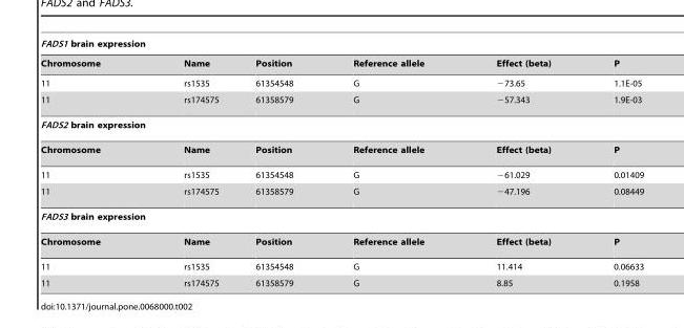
<table><thead><tr><td colspan="6">FADS1 brain expression</td></tr><tr><td>Chromosome</td><td>Name</td><td>Position</td><td>Reference allele</td><td>Effect (beta)</td><td>P</td></tr></thead><tbody><tr><td>11</td><td>rs1535</td><td>61354548</td><td>G</td><td>−73.65</td><td>1.1E-05</td></tr><tr><td>11</td><td>rs174575</td><td>61358579</td><td>G</td><td>−57.343</td><td>1.9E-03</td></tr><tr><td colspan="6">FADS2 brain expression</td></tr><tr><td>Chromosome</td><td>Name</td><td>Position</td><td>Reference allele</td><td>Effect (beta)</td><td>P</td></tr><tr><td>11</td><td>rs1535</td><td>61354548</td><td>G</td><td>−61.029</td><td>0.01409</td></tr><tr><td>11</td><td>rs174575</td><td>61358579</td><td>G</td><td>−47.196</td><td>0.08449</td></tr><tr><td colspan="6">FADS3 brain expression</td></tr><tr><td>Chromosome</td><td>Name</td><td>Position</td><td>Reference allele</td><td>Effect (beta)</td><td>P</td></tr><tr><td>11</td><td>rs1535</td><td>61354548</td><td>G</td><td>11.414</td><td>0.06633</td></tr><tr><td>11</td><td>rs174575</td><td>61358579</td><td>G</td><td>8.85</td><td>0.1958</td></tr></tbody></table>